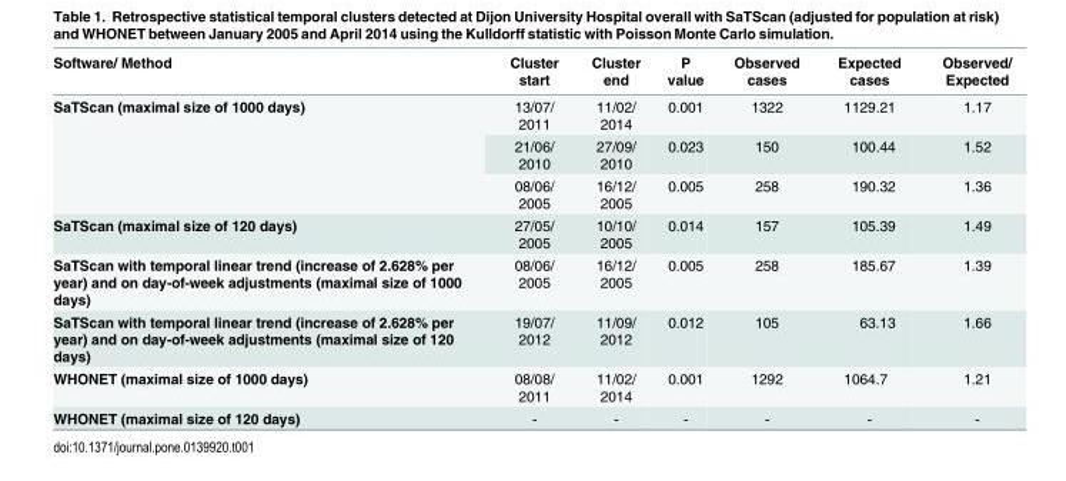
<table><thead><tr><td>Software/ Method</td><td>Cluster start</td><td>Cluster end</td><td>P value</td><td>Observed cases</td><td>Expected cases</td><td>Observed/ Expected</td></tr></thead><tbody><tr><td rowspan="3">SaTScan (maximal size of 1000 days)</td><td>13/07/ 2011</td><td>11/02/ 2014</td><td>0.001</td><td>1322</td><td>1129.21</td><td>1.17</td></tr><tr><td>21/06/ 2010</td><td>27/09/ 2010</td><td>0.023</td><td>150</td><td>100.44</td><td>1.52</td></tr><tr><td>08/06/ 2005</td><td>16/12/ 2005</td><td>0.005</td><td>258</td><td>190.32</td><td>1.36</td></tr><tr><td>SaTScan (maximal size of 120 days)</td><td>27/05/ 2005</td><td>10/10/ 2005</td><td>0.014</td><td>157</td><td>105.39</td><td>1.49</td></tr><tr><td>SaTScan with temporal linear trend (increase of 2.628% per year) and on day-of-week adjustments (maximal size of 1000 days)</td><td>08/06/ 2005</td><td>16/12/ 2005</td><td>0.005</td><td>258</td><td>185.67</td><td>1.39</td></tr><tr><td>SaTScan with temporal linear trend (increase of 2.628% per year) and on day-of-week adjustments (maximal size of 120 days)</td><td>19/07/ 2012</td><td>11/09/ 2012</td><td>0.012</td><td>105</td><td>63.13</td><td>1.66</td></tr><tr><td>WHONET (maximal size of 1000 days)</td><td>08/08/ 2011</td><td>11/02/ 2014</td><td>0.001</td><td>1292</td><td>1064.7</td><td>1.21</td></tr><tr><td>WHONET (maximal size of 120 days)</td><td>-</td><td>-</td><td>-</td><td>-</td><td>-</td><td>-</td></tr></tbody></table>